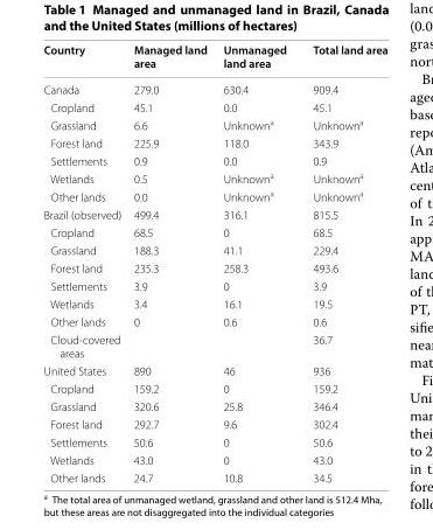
<table><thead><tr><td>Country</td><td>Managed land area</td><td>Unmanaged land area</td><td>Total land area</td></tr></thead><tbody><tr><td>Canada</td><td>279.0</td><td>630.4</td><td>909.4</td></tr><tr><td>Cropland</td><td>45.1</td><td>0.0</td><td>45.1</td></tr><tr><td>Grassland</td><td>6.6</td><td>Unknown<sup>a</sup></td><td>Unknown<sup>a</sup></td></tr><tr><td>Forest land</td><td>225.9</td><td>118.0</td><td>343.9</td></tr><tr><td>Settlements</td><td>0.9</td><td>0.0</td><td>0.9</td></tr><tr><td>Wetlands</td><td>0.5</td><td>Unknown<sup>a</sup></td><td>Unknown<sup>a</sup></td></tr><tr><td>Other lands</td><td>0.0</td><td>Unknown<sup>a</sup></td><td>Unknown<sup>a</sup></td></tr><tr><td>Brazil (observed)</td><td>499.4</td><td>316.1</td><td>815.5</td></tr><tr><td>Cropland</td><td>68.5</td><td>0</td><td>68.5</td></tr><tr><td>Grassland</td><td>188.3</td><td>41.1</td><td>229.4</td></tr><tr><td>Forest land</td><td>235.3</td><td>258.3</td><td>493.6</td></tr><tr><td>Settlements</td><td>3.9</td><td>0</td><td>3.9</td></tr><tr><td>Wetlands</td><td>3.4</td><td>16.1</td><td>19.5</td></tr><tr><td>Other lands</td><td>0</td><td>0.6</td><td>0.6</td></tr><tr><td>Cloud-covered areas</td><td colspan="2"></td><td>36.7</td></tr><tr><td>United States</td><td>890</td><td>46</td><td>936</td></tr><tr><td>Cropland</td><td>159.2</td><td>0</td><td>159.2</td></tr><tr><td>Grassland</td><td>320.6</td><td>25.8</td><td>346.4</td></tr><tr><td>Forest land</td><td>292.7</td><td>9.6</td><td>302.4</td></tr><tr><td>Settlements</td><td>50.6</td><td>0</td><td>50.6</td></tr><tr><td>Wetlands</td><td>43.0</td><td>0</td><td>43.0</td></tr><tr><td>Other lands</td><td>24.7</td><td>10.8</td><td>34.5</td></tr></tbody></table>